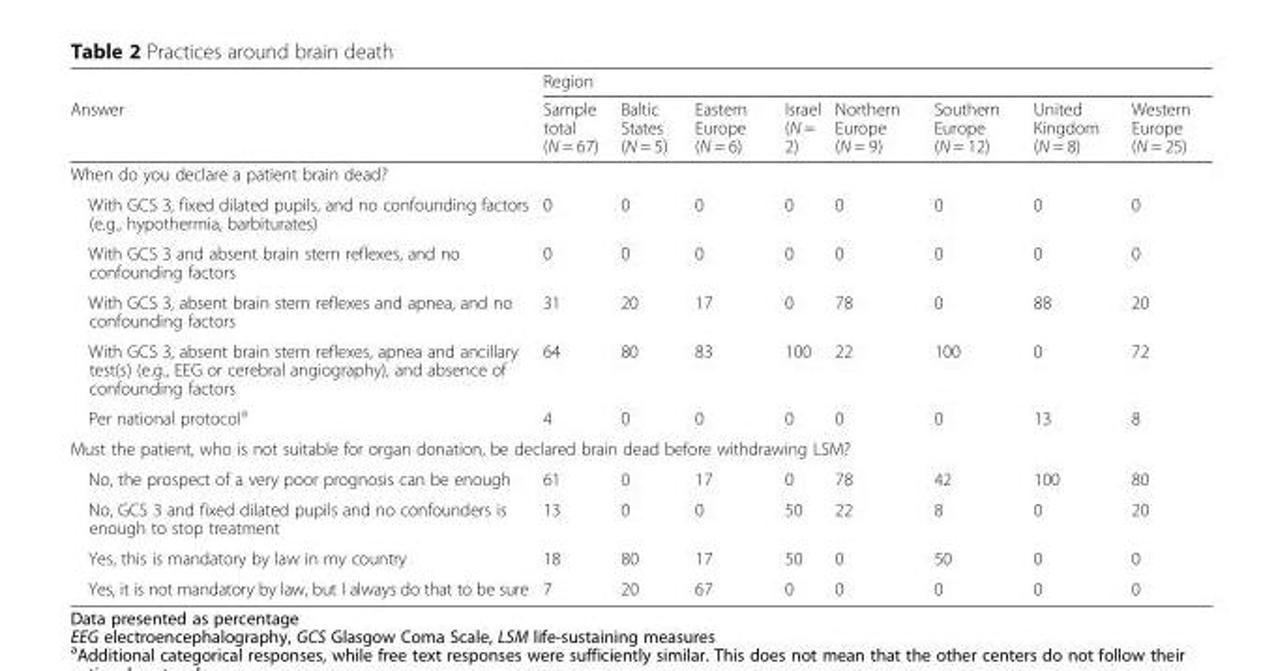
<table><thead><tr><td rowspan="2">Answer</td><td colspan="8">Region</td></tr><tr><td>Sample total (N = 67)</td><td>Baltic States (N = 5)</td><td>Eastern Europe (N = 6)</td><td>Israel (N = 2)</td><td>Northern Europe (N = 9)</td><td>Southern Europe (N = 12)</td><td>United Kingdom (N = 8)</td><td>Western Europe (N = 25)</td></tr></thead><tbody><tr><td colspan="9">When do you declare a patient brain dead?</td></tr><tr><td>With GCS 3, fixed dilated pupils, and no confounding factors (e.g., hypothermia, barbiturates)</td><td>0</td><td>0</td><td>0</td><td>0</td><td>0</td><td>0</td><td>0</td><td>0</td></tr><tr><td>With GCS 3 and absent brain stem reflexes, and no confounding factors</td><td>0</td><td>0</td><td>0</td><td>0</td><td>0</td><td>0</td><td>0</td><td>0</td></tr><tr><td>With GCS 3, absent brain stem reflexes and apnea, and no confounding factors</td><td>31</td><td>20</td><td>17</td><td>0</td><td>78</td><td>0</td><td>88</td><td>20</td></tr><tr><td>With GCS 3, absent brain stem reflexes, apnea and ancillary test(s) (e.g., EEG or cerebral angiography), and absence of confounding factors</td><td>64</td><td>80</td><td>83</td><td>100</td><td>22</td><td>100</td><td>0</td><td>72</td></tr><tr><td>Per national protocol<sup>a</sup></td><td>4</td><td>0</td><td>0</td><td>0</td><td>0</td><td>0</td><td>13</td><td>8</td></tr><tr><td colspan="9">Must the patient, who is not suitable for organ donation, be declared brain dead before withdrawing LSM?</td></tr><tr><td>No, the prospect of a very poor prognosis can be enough</td><td>61</td><td>0</td><td>17</td><td>0</td><td>78</td><td>42</td><td>100</td><td>80</td></tr><tr><td>No, GCS 3 and fixed dilated pupils and no confounders is enough to stop treatment</td><td>13</td><td>0</td><td>0</td><td>50</td><td>22</td><td>8</td><td>0</td><td>20</td></tr><tr><td>Yes, this is mandatory by law in my country</td><td>18</td><td>80</td><td>17</td><td>50</td><td>0</td><td>50</td><td>0</td><td>0</td></tr><tr><td>Yes, it is not mandatory by law, but I always do that to be sure</td><td>7</td><td>20</td><td>67</td><td>0</td><td>0</td><td>0</td><td>0</td><td>0</td></tr></tbody></table>